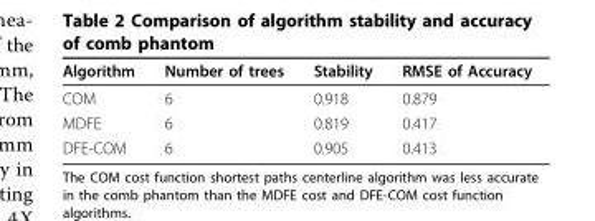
<table><thead><tr><td>Algorithm</td><td>Number of trees</td><td>Stability</td><td>RMSE of Accuracy</td></tr></thead><tbody><tr><td>COM</td><td>6</td><td>0.918</td><td>0.879</td></tr><tr><td>MDFE</td><td>6</td><td>0.819</td><td>0.417</td></tr><tr><td>DFE-COM</td><td>6</td><td>0.905</td><td>0.413</td></tr></tbody></table>